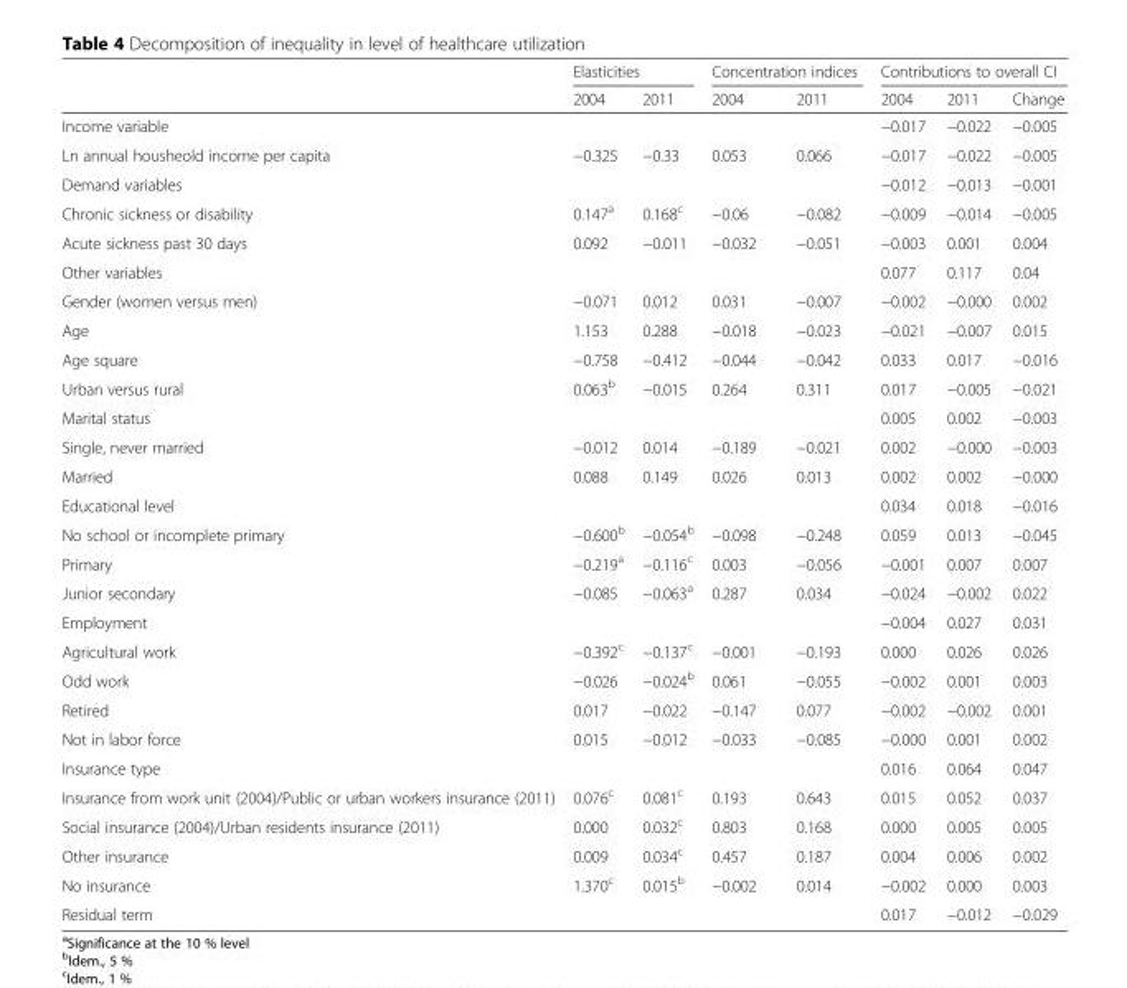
<table><thead><tr><td rowspan="2"></td><td colspan="2">Elasticities</td><td colspan="2">Concentration indices</td><td colspan="3">Contributions to overall CI</td></tr><tr><td>2004</td><td>2011</td><td>2004</td><td>2011</td><td>2004</td><td>2011</td><td>Change</td></tr></thead><tbody><tr><td colspan="5">Income variable</td><td>−0.017</td><td>−0.022</td><td>−0.005</td></tr><tr><td>Ln annual housheold income per capita</td><td>−0.325</td><td>−0.33</td><td>0.053</td><td>0.066</td><td>−0.017</td><td>−0.022</td><td>−0.005</td></tr><tr><td colspan="5">Demand variables</td><td>−0.012</td><td>−0.013</td><td>−0.001</td></tr><tr><td>Chronic sickness or disability</td><td>0.147<sup>a</sup></td><td>0.168<sup>c</sup></td><td>−0.06</td><td>−0.082</td><td>−0.009</td><td>−0.014</td><td>−0.005</td></tr><tr><td>Acute sickness past 30 days</td><td>0.092</td><td>−0.011</td><td>−0.032</td><td>−0.051</td><td>−0.003</td><td>0.001</td><td>0.004</td></tr><tr><td colspan="5">Other variables</td><td>0.077</td><td>0.117</td><td>0.04</td></tr><tr><td>Gender (women versus men)</td><td>−0.071</td><td>0.012</td><td>0.031</td><td>−0.007</td><td>−0.002</td><td>−0.000</td><td>0.002</td></tr><tr><td>Age</td><td>1.153</td><td>0.288</td><td>−0.018</td><td>−0.023</td><td>−0.021</td><td>−0.007</td><td>0.015</td></tr><tr><td>Age square</td><td>−0.758</td><td>−0.412</td><td>−0.044</td><td>−0.042</td><td>0.033</td><td>0.017</td><td>−0.016</td></tr><tr><td>Urban versus rural</td><td>0.063<sup>b</sup></td><td>−0.015</td><td>0.264</td><td>0.311</td><td>0.017</td><td>−0.005</td><td>−0.021</td></tr><tr><td colspan="5">Marital status</td><td>0.005</td><td>0.002</td><td>−0.003</td></tr><tr><td>Single, never married</td><td>−0.012</td><td>0.014</td><td>−0.189</td><td>−0.021</td><td>0.002</td><td>−0.000</td><td>−0.003</td></tr><tr><td>Married</td><td>0.088</td><td>0.149</td><td>0.026</td><td>0.013</td><td>0.002</td><td>0.002</td><td>−0.000</td></tr><tr><td colspan="5">Educational level</td><td>0.034</td><td>0.018</td><td>−0.016</td></tr><tr><td>No school or incomplete primary</td><td>−0.600<sup>b</sup></td><td>−0.054<sup>b</sup></td><td>−0.098</td><td>−0.248</td><td>0.059</td><td>0.013</td><td>−0.045</td></tr><tr><td>Primary</td><td>−0.219<sup>a</sup></td><td>−0.116<sup>c</sup></td><td>0.003</td><td>−0.056</td><td>−0.001</td><td>0.007</td><td>0.007</td></tr><tr><td>Junior secondary</td><td>−0.085</td><td>−0.063<sup>a</sup></td><td>0.287</td><td>0.034</td><td>−0.024</td><td>−0.002</td><td>0.022</td></tr><tr><td colspan="5">Employment</td><td>−0.004</td><td>0.027</td><td>0.031</td></tr><tr><td>Agricultural work</td><td>−0.392<sup>c</sup></td><td>−0.137<sup>c</sup></td><td>−0.001</td><td>−0.193</td><td>0.000</td><td>0.026</td><td>0.026</td></tr><tr><td>Odd work</td><td>−0.026</td><td>−0.024<sup>b</sup></td><td>0.061</td><td>−0.055</td><td>−0.002</td><td>0.001</td><td>0.003</td></tr><tr><td>Retired</td><td>0.017</td><td>−0.022</td><td>−0.147</td><td>0.077</td><td>−0.002</td><td>−0.002</td><td>0.001</td></tr><tr><td>Not in labor force</td><td>0.015</td><td>−0.012</td><td>−0.033</td><td>−0.085</td><td>−0.000</td><td>0.001</td><td>0.002</td></tr><tr><td colspan="5">Insurance type</td><td>0.016</td><td>0.064</td><td>0.047</td></tr><tr><td>Insurance from work unit (2004)/Public or urban workers insurance (2011)</td><td>0.076<sup>c</sup></td><td>0.081<sup>c</sup></td><td>0.193</td><td>0.643</td><td>0.015</td><td>0.052</td><td>0.037</td></tr><tr><td>Social insurance (2004)/Urban residents insurance (2011)</td><td>0.000</td><td>0.032<sup>c</sup></td><td>0.803</td><td>0.168</td><td>0.000</td><td>0.005</td><td>0.005</td></tr><tr><td>Other insurance</td><td>0.009</td><td>0.034<sup>c</sup></td><td>0.457</td><td>0.187</td><td>0.004</td><td>0.006</td><td>0.002</td></tr><tr><td>No insurance</td><td>1.370<sup>c</sup></td><td>0.015<sup>b</sup></td><td>−0.002</td><td>0.014</td><td>−0.002</td><td>0.000</td><td>0.003</td></tr><tr><td colspan="5">Residual term</td><td>0.017</td><td>−0.012</td><td>−0.029</td></tr></tbody></table>